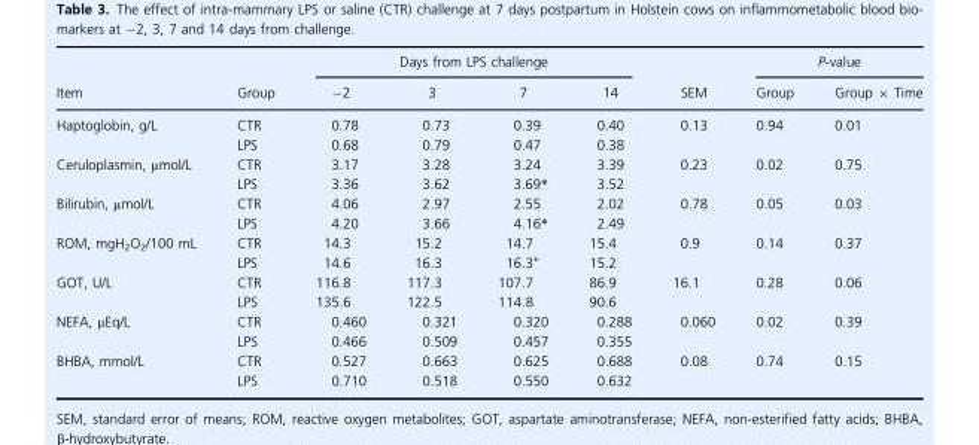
<table><thead><tr><td rowspan="2">Item</td><td rowspan="2">Group</td><td colspan="4">Days from LPS challenge</td><td rowspan="2">SEM</td><td colspan="2">P-value</td></tr><tr><td>−2</td><td>3</td><td>7</td><td>14</td><td>Group</td><td>Group × Time</td></tr></thead><tbody><tr><td rowspan="2">Haptoglobin, g/L</td><td>CTR</td><td>0.78</td><td>0.73</td><td>0.39</td><td>0.40</td><td rowspan="2">0.13</td><td rowspan="2">0.94</td><td rowspan="2">0.01</td></tr><tr><td>LPS</td><td>0.68</td><td>0.79</td><td>0.47</td><td>0.38</td></tr><tr><td rowspan="2">Ceruloplasmin, µmol/L</td><td>CTR</td><td>3.17</td><td>3.28</td><td>3.24</td><td>3.39</td><td rowspan="2">0.23</td><td rowspan="2">0.02</td><td rowspan="2">0.75</td></tr><tr><td>LPS</td><td>3.36</td><td>3.62</td><td>3.69*</td><td>3.52</td></tr><tr><td rowspan="2">Bilirubin, µmol/L</td><td>CTR</td><td>4.06</td><td>2.97</td><td>2.55</td><td>2.02</td><td rowspan="2">0.78</td><td rowspan="2">0.05</td><td rowspan="2">0.03</td></tr><tr><td>LPS</td><td>4.20</td><td>3.66</td><td>4.16*</td><td>2.49</td></tr><tr><td rowspan="2">ROM, mgH<sub>2</sub>O<sub>2</sub>/100 mL</td><td>CTR</td><td>14.3</td><td>15.2</td><td>14.7</td><td>15.4</td><td rowspan="2">0.9</td><td rowspan="2">0.14</td><td rowspan="2">0.37</td></tr><tr><td>LPS</td><td>14.6</td><td>16.3</td><td>16.3<sup>+</sup></td><td>15.2</td></tr><tr><td rowspan="2">GOT, U/L</td><td>CTR</td><td>116.8</td><td>117.3</td><td>107.7</td><td>86.9</td><td rowspan="2">16.1</td><td rowspan="2">0.28</td><td rowspan="2">0.06</td></tr><tr><td>LPS</td><td>135.6</td><td>122.5</td><td>114.8</td><td>90.6</td></tr><tr><td rowspan="2">NEFA, μEq/L</td><td>CTR</td><td>0.460</td><td>0.321</td><td>0.320</td><td>0.288</td><td rowspan="2">0.060</td><td rowspan="2">0.02</td><td rowspan="2">0.39</td></tr><tr><td>LPS</td><td>0.466</td><td>0.509</td><td>0.457</td><td>0.355</td></tr><tr><td rowspan="2">BHBA, mmol/L</td><td>CTR</td><td>0.527</td><td>0.663</td><td>0.625</td><td>0.688</td><td rowspan="2">0.08</td><td rowspan="2">0.74</td><td rowspan="2">0.15</td></tr><tr><td>LPS</td><td>0.710</td><td>0.518</td><td>0.550</td><td>0.632</td></tr></tbody></table>